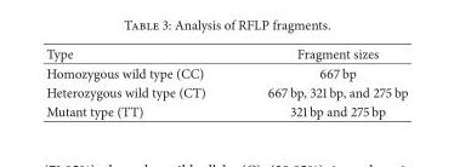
<table><thead><tr><td>Type</td><td>Fragment sizes</td></tr></thead><tbody><tr><td>Homozygous wild type (CC)</td><td>667 bp</td></tr><tr><td>Heterozygous wild type (CT)</td><td>667 bp, 321 bp, and 275 bp</td></tr><tr><td>Mutant type (TT)</td><td>321 bp and 275 bp</td></tr></tbody></table>